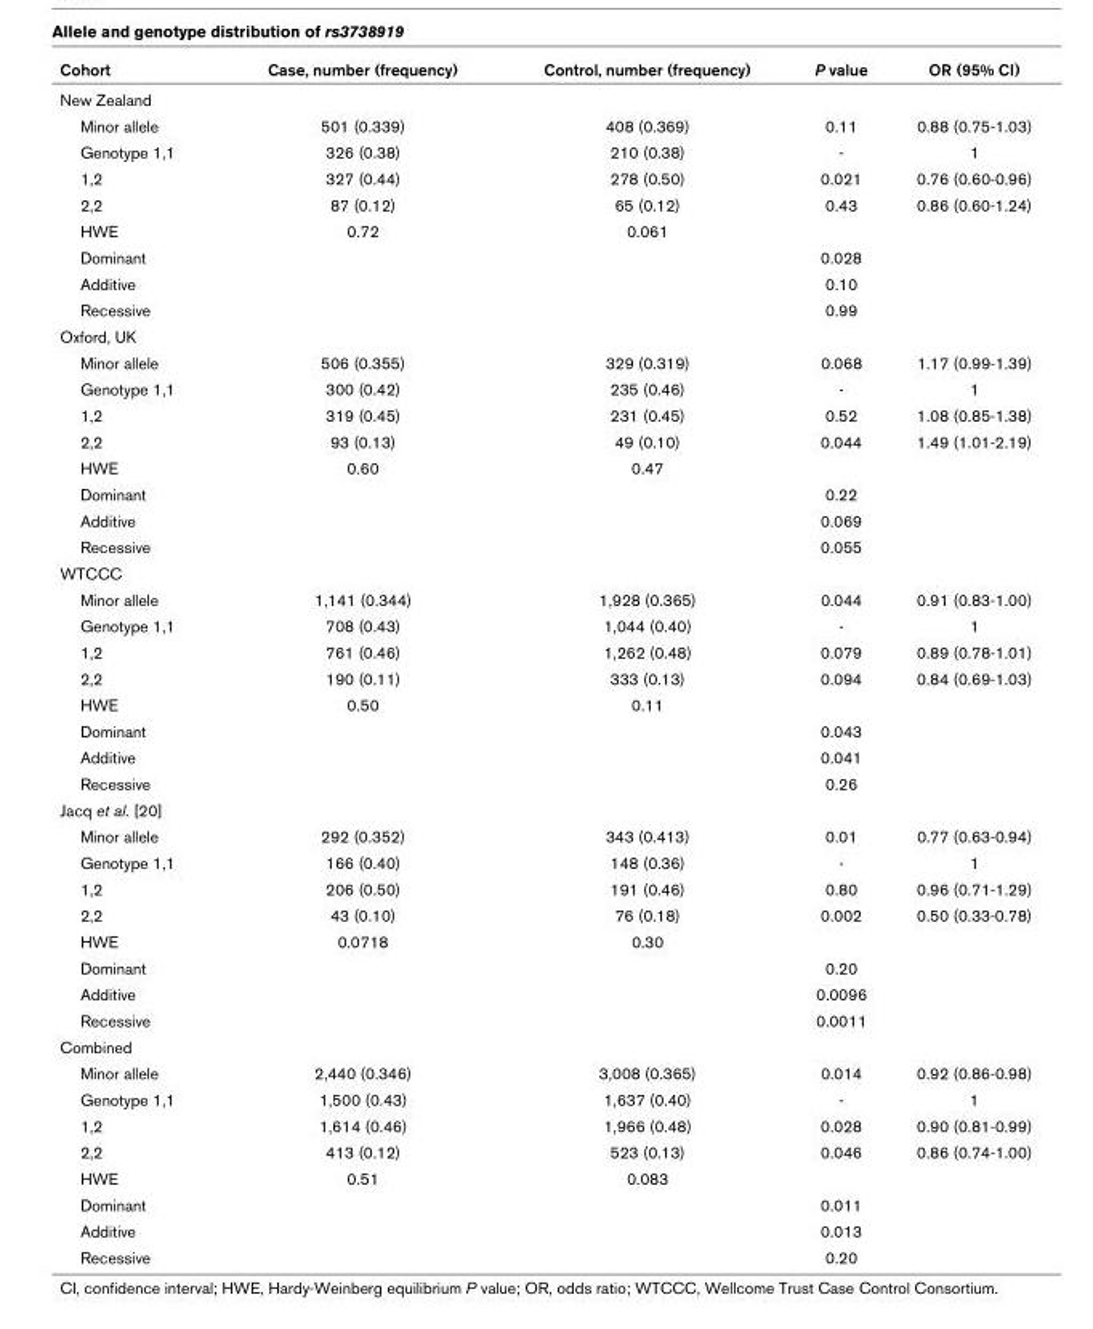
<table><thead><tr><td>Cohort</td><td>Case, number (frequency)</td><td>Control, number (frequency)</td><td>P value</td><td>OR (95% CI)</td></tr></thead><tbody><tr><td colspan="5">New Zealand</td></tr><tr><td>Minor allele</td><td>501 (0.339)</td><td>408 (0.369)</td><td>0.11</td><td>0.88 (0.75-1.03)</td></tr><tr><td>Genotype 1,1</td><td>326 (0.38)</td><td>210 (0.38)</td><td>-</td><td>1</td></tr><tr><td>1,2</td><td>327 (0.44)</td><td>278 (0.50)</td><td>0.021</td><td>0.76 (0.60-0.96)</td></tr><tr><td>2,2</td><td>87 (0.12)</td><td>65 (0.12)</td><td>0.43</td><td>0.86 (0.60-1.24)</td></tr><tr><td>HWE</td><td>0.72</td><td>0.061</td><td></td><td></td></tr><tr><td>Dominant</td><td></td><td></td><td>0.028</td><td></td></tr><tr><td>Additive</td><td></td><td></td><td>0.10</td><td></td></tr><tr><td>Recessive</td><td></td><td></td><td>0.99</td><td></td></tr><tr><td colspan="5">Oxford, UK</td></tr><tr><td>Minor allele</td><td>506 (0.355)</td><td>329 (0.319)</td><td>0.068</td><td>1.17 (0.99-1.39)</td></tr><tr><td>Genotype 1,1</td><td>300 (0.42)</td><td>235 (0.46)</td><td>-</td><td>1</td></tr><tr><td>1,2</td><td>319 (0.45)</td><td>231 (0.45)</td><td>0.52</td><td>1.08 (0.85-1.38)</td></tr><tr><td>2,2</td><td>93 (0.13)</td><td>49 (0.10)</td><td>0.044</td><td>1.49 (1.01-2.19)</td></tr><tr><td>HWE</td><td>0.60</td><td>0.47</td><td></td><td></td></tr><tr><td>Dominant</td><td></td><td></td><td>0.22</td><td></td></tr><tr><td>Additive</td><td></td><td></td><td>0.069</td><td></td></tr><tr><td>Recessive</td><td></td><td></td><td>0.055</td><td></td></tr><tr><td colspan="5">WTCCC</td></tr><tr><td>Minor allele</td><td>1,141 (0.344)</td><td>1,928 (0.365)</td><td>0.044</td><td>0.91 (0.83-1.00)</td></tr><tr><td>Genotype 1,1</td><td>708 (0.43)</td><td>1,044 (0.40)</td><td>-</td><td>1</td></tr><tr><td>1,2</td><td>761 (0.46)</td><td>1,262 (0.48)</td><td>0.079</td><td>0.89 (0.78-1.01)</td></tr><tr><td>2,2</td><td>190 (0.11)</td><td>333 (0.13)</td><td>0.094</td><td>0.84 (0.69-1.03)</td></tr><tr><td>HWE</td><td>0.50</td><td>0.11</td><td></td><td></td></tr><tr><td>Dominant</td><td></td><td></td><td>0.043</td><td></td></tr><tr><td>Additive</td><td></td><td></td><td>0.041</td><td></td></tr><tr><td>Recessive</td><td></td><td></td><td>0.26</td><td></td></tr><tr><td colspan="5">Jacq et al. [20]</td></tr><tr><td>Minor allele</td><td>292 (0.352)</td><td>343 (0.413)</td><td>0.01</td><td>0.77 (0.63-0.94)</td></tr><tr><td>Genotype 1,1</td><td>166 (0.40)</td><td>148 (0.36)</td><td>-</td><td>1</td></tr><tr><td>1,2</td><td>206 (0.50)</td><td>191 (0.46)</td><td>0.80</td><td>0.96 (0.71-1.29)</td></tr><tr><td>2,2</td><td>43 (0.10)</td><td>76 (0.18)</td><td>0.002</td><td>0.50 (0.33-0.78)</td></tr><tr><td>HWE</td><td>0.0718</td><td>0.30</td><td></td><td></td></tr><tr><td>Dominant</td><td></td><td></td><td>0.20</td><td></td></tr><tr><td>Additive</td><td></td><td></td><td>0.0096</td><td></td></tr><tr><td>Recessive</td><td></td><td></td><td>0.0011</td><td></td></tr><tr><td colspan="5">Combined</td></tr><tr><td>Minor allele</td><td>2,440 (0.346)</td><td>3,008 (0.365)</td><td>0.014</td><td>0.92 (0.86-0.98)</td></tr><tr><td>Genotype 1,1</td><td>1,500 (0.43)</td><td>1,637 (0.40)</td><td>-</td><td>1</td></tr><tr><td>1,2</td><td>1,614 (0.46)</td><td>1,966 (0.48)</td><td>0.028</td><td>0.90 (0.81-0.99)</td></tr><tr><td>2,2</td><td>413 (0.12)</td><td>523 (0.13)</td><td>0.046</td><td>0.86 (0.74-1.00)</td></tr><tr><td>HWE</td><td>0.51</td><td>0.083</td><td></td><td></td></tr><tr><td>Dominant</td><td></td><td></td><td>0.011</td><td></td></tr><tr><td>Additive</td><td></td><td></td><td>0.013</td><td></td></tr><tr><td>Recessive</td><td></td><td></td><td>0.20</td><td></td></tr></tbody></table>